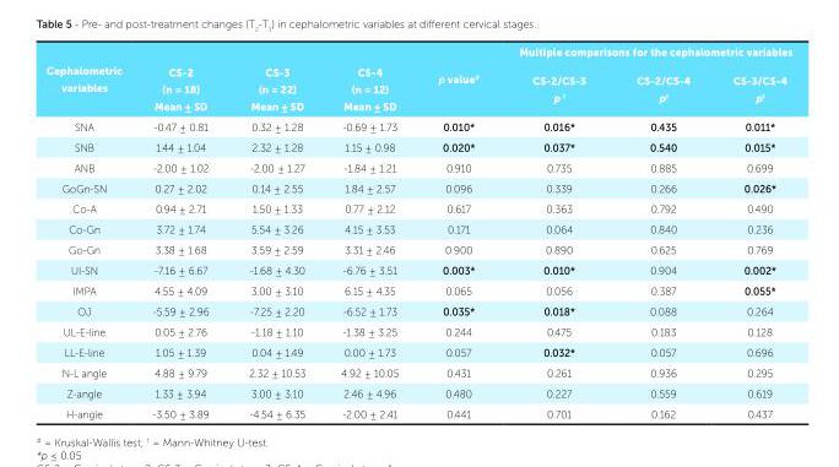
<table><tbody><tr><td rowspan="2">Cephalometric variables</td><td></td><td></td><td></td><td rowspan="2">p value<sup>#</sup></td><td colspan="3">Multiple comparisons for the cephalometric variables</td></tr><tr><td>CS-2 (n = 18) Mean ± SD</td><td>CS-3 (n = 22) Mean ± SD</td><td>CS-4 (n = 12) Mean ± SD</td><td>CS-2/CS-3 p <sup>†</sup></td><td>CS-2/CS-4 p<sup>†</sup></td><td>CS-3/CS-4 p<sup>†</sup></td></tr><tr><td>SNA</td><td>-0.47 ± 0.81</td><td>0.32 ± 1.28</td><td>-0.69 ± 1.73</td><td>0.010*</td><td>0.016*</td><td>0.435</td><td>0.011*</td></tr><tr><td>SNB</td><td>1.44 ± 1.04</td><td>2.32 ± 1.28</td><td>1.15 ± 0.98</td><td>0.020*</td><td>0.037*</td><td>0.540</td><td>0.015*</td></tr><tr><td>ANB</td><td>-2.00 ± 1.02</td><td>-2.00 ± 1.27</td><td>-1.84 ± 1.21</td><td>0.910</td><td>0.735</td><td>0.885</td><td>0.699</td></tr><tr><td>GoGn-SN</td><td>0.27 ± 2.02</td><td>0.14 ± 2.55</td><td>1.84 ± 2.57</td><td>0.096</td><td>0.339</td><td>0.266</td><td>0.026*</td></tr><tr><td>Co-A</td><td>0.94 ± 2.71</td><td>1.50 ± 1.33</td><td>0.77 ± 2.12</td><td>0.617</td><td>0.363</td><td>0.792</td><td>0.490</td></tr><tr><td>Co-Gn</td><td>3.72 ± 1.74</td><td>5.54 ± 3.26</td><td>4.15 ± 3.53</td><td>0.171</td><td>0.064</td><td>0.840</td><td>0.236</td></tr><tr><td>Go-Gn</td><td>3.38 ± 1.68</td><td>3.59 ± 2.59</td><td>3.31 ± 2.46</td><td>0.900</td><td>0.890</td><td>0.625</td><td>0.769</td></tr><tr><td>UI-SN</td><td>-7.16 ± 6.67</td><td>-1.68 ± 4.30</td><td>-6.76 ± 3.51</td><td>0.003*</td><td>0.010*</td><td>0.904</td><td>0.002*</td></tr><tr><td>IMPA</td><td>4.55 ± 4.09</td><td>3.00 ± 3.10</td><td>6.15 ± 4.35</td><td>0.065</td><td>0.056</td><td>0.387</td><td>0.055*</td></tr><tr><td>OJ</td><td>-5.59 ± 2.96</td><td>-7.25 ± 2.20</td><td>-6.52 ± 1.73</td><td>0.035*</td><td>0.018*</td><td>0.088</td><td>0.264</td></tr><tr><td>UL-E-line</td><td>0.05 ± 2.76</td><td>-1.18 ± 1.10</td><td>-1.38 ± 3.25</td><td>0.244</td><td>0.475</td><td>0.183</td><td>0.128</td></tr><tr><td>LL-E-line</td><td>1.05 ± 1.39</td><td>0.04 ± 1.49</td><td>0.00 ± 1.73</td><td>0.057</td><td>0.032*</td><td>0.057</td><td>0.696</td></tr><tr><td>N-L angle</td><td>4.88 ± 9.79</td><td>2.32 ± 10.53</td><td>4.92 ± 10.05</td><td>0.431</td><td>0.261</td><td>0.936</td><td>0.295</td></tr><tr><td>Z-angle</td><td>1.33 ± 3.94</td><td>3.00 ± 3.10</td><td>2.46 ± 4.96</td><td>0.480</td><td>0.227</td><td>0.559</td><td>0.619</td></tr><tr><td>H-angle</td><td>-3.50 ± 3.89</td><td>-4.54 ± 6.35</td><td>-2.00 ± 2.41</td><td>0.441</td><td>0.701</td><td>0.162</td><td>0.437</td></tr></tbody></table>